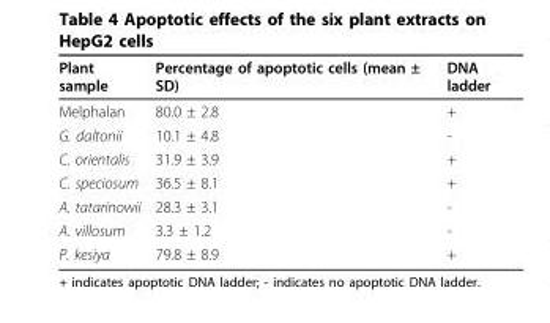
<table><thead><tr><td>Plant sample</td><td>Percentage of apoptotic cells (mean ± SD)</td><td>DNA ladder</td></tr></thead><tbody><tr><td>Melphalan</td><td>80.0 ± 2.8</td><td>+</td></tr><tr><td>G. daltonii</td><td>10.1 ± 4.8</td><td>-</td></tr><tr><td>C. orientalis</td><td>31.9 ± 3.9</td><td>+</td></tr><tr><td>C. speciosum</td><td>36.5 ± 8.1</td><td>+</td></tr><tr><td>A. tatarinowii</td><td>28.3 ± 3.1</td><td>-</td></tr><tr><td>A. villosum</td><td>3.3 ± 1.2</td><td>-</td></tr><tr><td>P. kesiya</td><td>79.8 ± 8.9</td><td>+</td></tr></tbody></table>